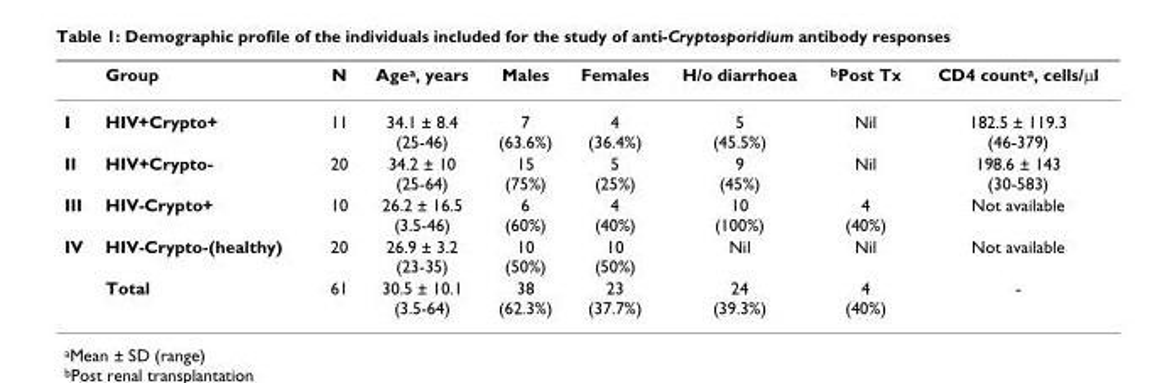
<table><thead><tr><td></td><td>Group</td><td>N</td><td>Age<sup>a</sup>, years</td><td>Males</td><td>Females</td><td>H/o diarrhoea</td><td><sup>b</sup>Post Tx</td><td>CD4 count<sup>a</sup>, cells/μl</td></tr></thead><tbody><tr><td>I</td><td>HIV+Crypto+</td><td>11</td><td>34.1 ± 8.4 (25-46)</td><td>7 (63.6%)</td><td>4 (36.4%)</td><td>5 (45.5%)</td><td>Nil</td><td>182.5 ± 119.3 (46-379)</td></tr><tr><td>II</td><td>HIV+Crypto-</td><td>20</td><td>34.2 ± 10 (25-64)</td><td>15 (75%)</td><td>5 (25%)</td><td>9 (45%)</td><td>Nil</td><td>198.6 ± 143 (30-583)</td></tr><tr><td>III</td><td>HIV-Crypto+</td><td>10</td><td>26.2 ± 16.5 (3.5-46)</td><td>6 (60%)</td><td>4 (40%)</td><td>10 (100%)</td><td>4 (40%)</td><td>Not available</td></tr><tr><td rowspan="2">IV</td><td>HIV-Crypto-(healthy)</td><td>20</td><td>26.9 ± 3.2 (23-35)</td><td>10 (50%)</td><td>10 (50%)</td><td>Nil</td><td>Nil</td><td>Not available</td></tr><tr><td>Total</td><td>61</td><td>30.5 ± 10.1 (3.5-64)</td><td>38 (62.3%)</td><td>23 (37.7%)</td><td>24 (39.3%)</td><td>4 (40%)</td><td>-</td></tr></tbody></table>